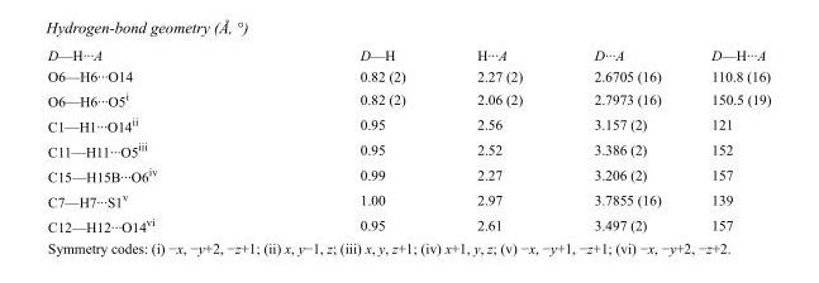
<table><tbody><tr><td>D—H···A</td><td>D—H</td><td>H···A</td><td>D···A</td><td>D—H···A</td></tr><tr><td>O6—H6···O14</td><td>0.82 (2)</td><td>2.27 (2)</td><td>2.6705 (16)</td><td>110.8 (16)</td></tr><tr><td>O6—H6···O5<sup>i</sup></td><td>0.82 (2)</td><td>2.06 (2)</td><td>2.7973 (16)</td><td>150.5 (19)</td></tr><tr><td>C1—H1···O14<sup>ii</sup></td><td>0.95</td><td>2.56</td><td>3.157 (2)</td><td>121</td></tr><tr><td>C11—H11···O5<sup>iii</sup></td><td>0.95</td><td>2.52</td><td>3.386 (2)</td><td>152</td></tr><tr><td>C15—H15B···O6<sup>iv</sup></td><td>0.99</td><td>2.27</td><td>3.206 (2)</td><td>157</td></tr><tr><td>C7—H7···S1<sup>v</sup></td><td>1.00</td><td>2.97</td><td>3.7855 (16)</td><td>139</td></tr><tr><td>C12—H12···O14<sup>vi</sup></td><td>0.95</td><td>2.61</td><td>3.497 (2)</td><td>157</td></tr></tbody></table>